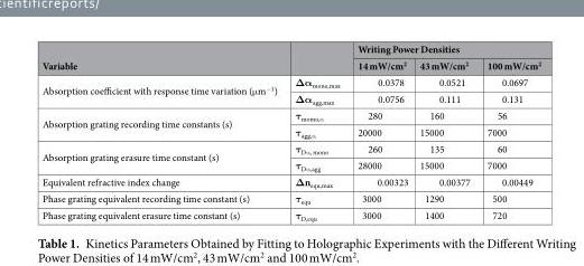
<table><thead><tr><td rowspan="2">Variable</td><td rowspan="2"></td><td colspan="3">Writing Power Densities</td></tr><tr><td>14 mW/cm<sup>2</sup></td><td>43 mW/cm<sup>2</sup></td><td>100 mW/cm<sup>2</sup></td></tr></thead><tbody><tr><td rowspan="2">Absorption coefficient with response time variation (μm<sup>−1</sup>)</td><td>Δα<sub>mono,max</sub></td><td>0.0378</td><td>0.0521</td><td>0.0697</td></tr><tr><td>Δα<sub>agg,max</sub></td><td>0.0756</td><td>0.111</td><td>0.131</td></tr><tr><td rowspan="2">Absorption grating recording time constants (s)</td><td>τ<sub>momo,α</sub></td><td>280</td><td>160</td><td>56</td></tr><tr><td>τ<sub>agg,α</sub></td><td>20000</td><td>15000</td><td>7000</td></tr><tr><td rowspan="2">Absorption grating erasure time constant (s)</td><td>τ<sub>Dα, mono</sub></td><td>260</td><td>135</td><td>60</td></tr><tr><td>τ<sub>Dα,agg</sub></td><td>28000</td><td>15000</td><td>7000</td></tr><tr><td>Equivalent refractive index change</td><td>Δn<sub>equ,max</sub></td><td>0.00323</td><td>0.00377</td><td>0.00449</td></tr><tr><td>Phase grating equivalent recording time constant (s)</td><td>τ<sub>equ</sub></td><td>3000</td><td>1290</td><td>500</td></tr><tr><td>Phase grating equivalent erasure time constant (s)</td><td>τ<sub>D,equ</sub></td><td>3000</td><td>1400</td><td>720</td></tr></tbody></table>